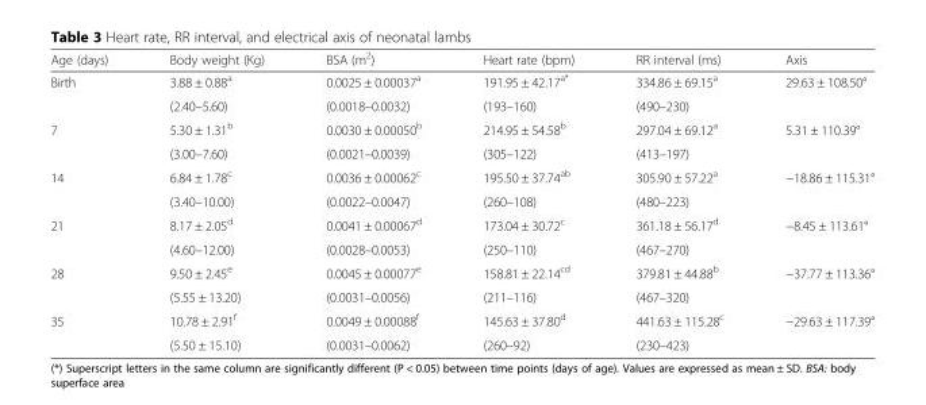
<table><thead><tr><td>Age (days)</td><td>Body weight (Kg)</td><td>BSA (m<sup>2</sup>)</td><td>Heart rate (bpm)</td><td>RR interval (ms)</td><td>Axis</td></tr></thead><tbody><tr><td rowspan="2">Birth</td><td>3.88 ± 0.88<sup>a</sup></td><td>0.0025 ± 0.00037<sup>a</sup></td><td>191.95 ± 42.17<sup>a*</sup></td><td>334.86 ± 69.15<sup>a</sup></td><td>29.63 ± 108.50°</td></tr><tr><td>(2.40–5.60)</td><td>(0.0018–0.0032)</td><td>(193–160)</td><td>(490–230)</td><td></td></tr><tr><td rowspan="2">7</td><td>5.30 ± 1.31<sup>b</sup></td><td>0.0030 ± 0.00050<sup>b</sup></td><td>214.95 ± 54.58<sup>b</sup></td><td>297.04 ± 69.12<sup>a</sup></td><td>5.31 ± 110.39°</td></tr><tr><td>(3.00–7.60)</td><td>(0.0021–0.0039)</td><td>(305–122)</td><td>(413–197)</td><td></td></tr><tr><td rowspan="2">14</td><td>6.84 ± 1.78<sup>c</sup></td><td>0.0036 ± 0.00062<sup>c</sup></td><td>195.50 ± 37.74<sup>ab</sup></td><td>305.90 ± 57.22<sup>a</sup></td><td>−18.86 ± 115.31°</td></tr><tr><td>(3.40–10.00)</td><td>(0.0022–0.0047)</td><td>(260–108)</td><td>(480–223)</td><td></td></tr><tr><td rowspan="2">21</td><td>8.17 ± 2.05<sup>d</sup></td><td>0.0041 ± 0.00067<sup>d</sup></td><td>173.04 ± 30.72<sup>c</sup></td><td>361.18 ± 56.17<sup>d</sup></td><td>−8.45 ± 113.61°</td></tr><tr><td>(4.60–12.00)</td><td>(0.0028–0.0053)</td><td>(250–110)</td><td>(467–270)</td><td></td></tr><tr><td rowspan="2">28</td><td>9.50 ± 2.45<sup>e</sup></td><td>0.0045 ± 0.00077<sup>e</sup></td><td>158.81 ± 22.14<sup>cd</sup></td><td>379.81 ± 44.88<sup>b</sup></td><td>−37.77 ± 113.36°</td></tr><tr><td>(5.55 ± 13.20)</td><td>(0.0031–0.0056)</td><td>(211–116)</td><td>(467–320)</td><td></td></tr><tr><td rowspan="2">35</td><td>10.78 ± 2.91<sup>f</sup></td><td>0.0049 ± 0.00088<sup>f</sup></td><td>145.63 ± 37.80<sup>d</sup></td><td>441.63 ± 115.28<sup>c</sup></td><td>−29.63 ± 117.39°</td></tr><tr><td>(5.50 ± 15.10)</td><td>(0.0031–0.0062)</td><td>(260–92)</td><td>(230–423)</td><td></td></tr></tbody></table>